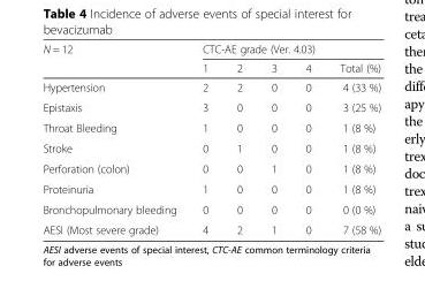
<table><thead><tr><td rowspan="2">N = 12</td><td colspan="5">CTC-AE grade (Ver. 4.03)</td></tr><tr><td>1</td><td>2</td><td>3</td><td>4</td><td>Total (%)</td></tr></thead><tbody><tr><td>Hypertension</td><td>2</td><td>2</td><td>0</td><td>0</td><td>4 (33 %)</td></tr><tr><td>Epistaxis</td><td>3</td><td>0</td><td>0</td><td>0</td><td>3 (25 %)</td></tr><tr><td>Throat Bleeding</td><td>1</td><td>0</td><td>0</td><td>0</td><td>1 (8 %)</td></tr><tr><td>Stroke</td><td>0</td><td>1</td><td>0</td><td>0</td><td>1 (8 %)</td></tr><tr><td>Perforation (colon)</td><td>0</td><td>0</td><td>1</td><td>0</td><td>1 (8 %)</td></tr><tr><td>Proteinuria</td><td>1</td><td>0</td><td>0</td><td>0</td><td>1 (8 %)</td></tr><tr><td>Bronchopulmonary bleeding</td><td>0</td><td>0</td><td>0</td><td>0</td><td>0 (0 %)</td></tr><tr><td>AESI (Most severe grade)</td><td>4</td><td>2</td><td>1</td><td>0</td><td>7 (58 %)</td></tr></tbody></table>